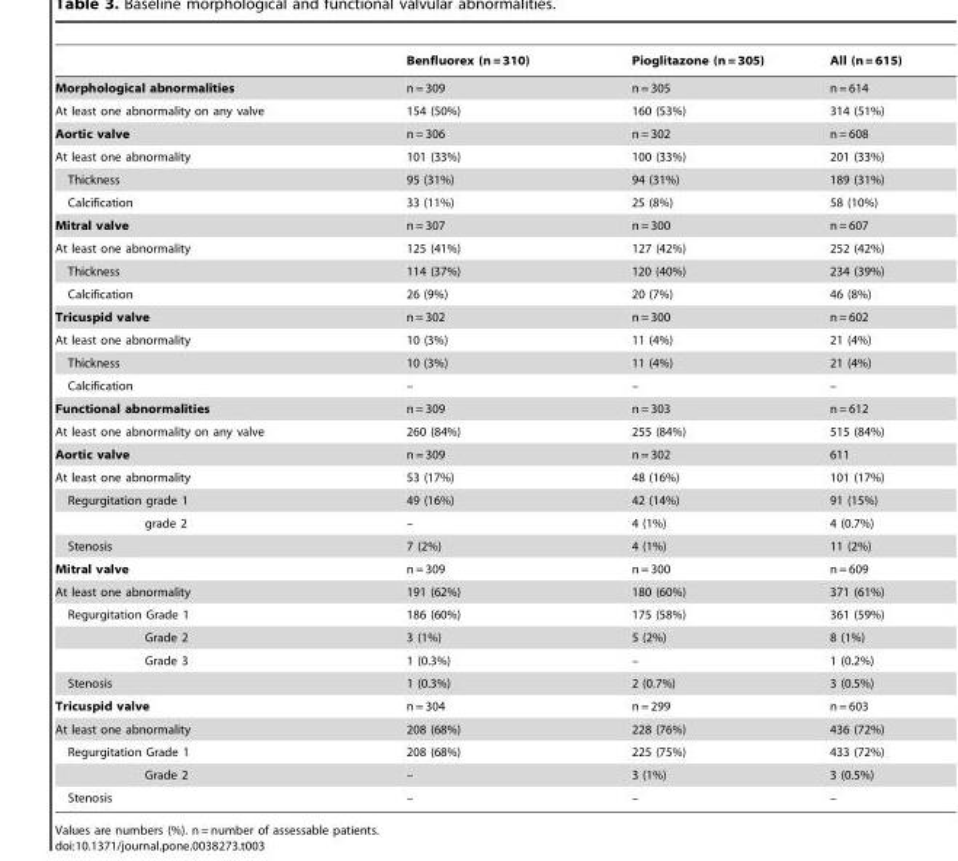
<table><thead><tr><td></td><td>Benfluorex (n = 310)</td><td>Pioglitazone (n = 305)</td><td>All (n = 615)</td></tr></thead><tbody><tr><td>Morphological abnormalities</td><td>n = 309</td><td>n = 305</td><td>n = 614</td></tr><tr><td>At least one abnormality on any valve</td><td>154 (50%)</td><td>160 (53%)</td><td>314 (51%)</td></tr><tr><td>Aortic valve</td><td>n = 306</td><td>n = 302</td><td>n = 608</td></tr><tr><td>At least one abnormality</td><td>101 (33%)</td><td>100 (33%)</td><td>201 (33%)</td></tr><tr><td>Thickness</td><td>95 (31%)</td><td>94 (31%)</td><td>189 (31%)</td></tr><tr><td>Calcification</td><td>33 (11%)</td><td>25 (8%)</td><td>58 (10%)</td></tr><tr><td>Mitral valve</td><td>n = 307</td><td>n = 300</td><td>n = 607</td></tr><tr><td>At least one abnormality</td><td>125 (41%)</td><td>127 (42%)</td><td>252 (42%)</td></tr><tr><td>Thickness</td><td>114 (37%)</td><td>120 (40%)</td><td>234 (39%)</td></tr><tr><td>Calcification</td><td>26 (9%)</td><td>20 (7%)</td><td>46 (8%)</td></tr><tr><td>Tricuspid valve</td><td>n = 302</td><td>n = 300</td><td>n = 602</td></tr><tr><td>At least one abnormality</td><td>10 (3%)</td><td>11 (4%)</td><td>21 (4%)</td></tr><tr><td>Thickness</td><td>10 (3%)</td><td>11 (4%)</td><td>21 (4%)</td></tr><tr><td>Calcification</td><td>–</td><td>–</td><td>–</td></tr><tr><td>Functional abnormalities</td><td>n = 309</td><td>n = 303</td><td>n = 612</td></tr><tr><td>At least one abnormality on any valve</td><td>260 (84%)</td><td>255 (84%)</td><td>515 (84%)</td></tr><tr><td>Aortic valve</td><td>n = 309</td><td>n = 302</td><td>611</td></tr><tr><td>At least one abnormality</td><td>53 (17%)</td><td>48 (16%)</td><td>101 (17%)</td></tr><tr><td>Regurgitation grade 1</td><td>49 (16%)</td><td>42 (14%)</td><td>91 (15%)</td></tr><tr><td>grade 2</td><td>–</td><td>4 (1%)</td><td>4 (0.7%)</td></tr><tr><td>Stenosis</td><td>7 (2%)</td><td>4 (1%)</td><td>11 (2%)</td></tr><tr><td>Mitral valve</td><td>n = 309</td><td>n = 300</td><td>n = 609</td></tr><tr><td>At least one abnormality</td><td>191 (62%)</td><td>180 (60%)</td><td>371 (61%)</td></tr><tr><td>Regurgitation Grade 1</td><td>186 (60%)</td><td>175 (58%)</td><td>361 (59%)</td></tr><tr><td>Grade 2</td><td>3 (1%)</td><td>5 (2%)</td><td>8 (1%)</td></tr><tr><td>Grade 3</td><td>1 (0.3%)</td><td>–</td><td>1 (0.2%)</td></tr><tr><td>Stenosis</td><td>1 (0.3%)</td><td>2 (0.7%)</td><td>3 (0.5%)</td></tr><tr><td>Tricuspid valve</td><td>n = 304</td><td>n = 299</td><td>n = 603</td></tr><tr><td>At least one abnormality</td><td>208 (68%)</td><td>228 (76%)</td><td>436 (72%)</td></tr><tr><td>Regurgitation Grade 1</td><td>208 (68%)</td><td>225 (75%)</td><td>433 (72%)</td></tr><tr><td>Grade 2</td><td>–</td><td>3 (1%)</td><td>3 (0.5%)</td></tr><tr><td>Stenosis</td><td>–</td><td>–</td><td>–</td></tr></tbody></table>